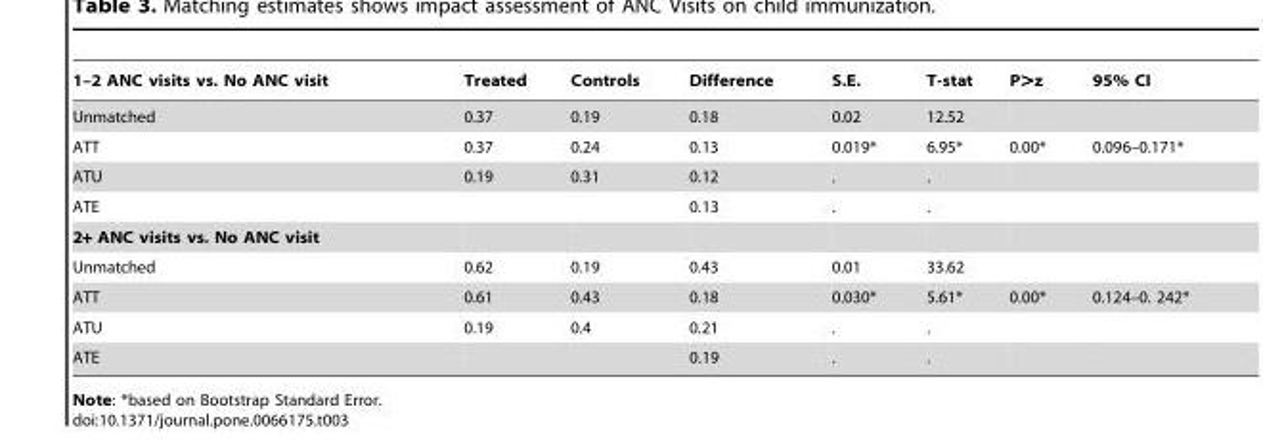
<table><thead><tr><td>1–2 ANC visits vs. No ANC visit</td><td>Treated</td><td>Controls</td><td>Difference</td><td>S.E.</td><td>T-stat</td><td>P&gt;z</td><td>95% CI</td></tr></thead><tbody><tr><td>Unmatched</td><td>0.37</td><td>0.19</td><td>0.18</td><td>0.02</td><td>12.52</td><td></td><td></td></tr><tr><td>ATT</td><td>0.37</td><td>0.24</td><td>0.13</td><td>0.019*</td><td>6.95*</td><td>0.00*</td><td>0.096–0.171*</td></tr><tr><td>ATU</td><td>0.19</td><td>0.31</td><td>0.12</td><td>.</td><td>.</td><td></td><td></td></tr><tr><td>ATE</td><td></td><td></td><td>0.13</td><td>.</td><td>.</td><td></td><td></td></tr><tr><td colspan="8">2+ ANC visits vs. No ANC visit</td></tr><tr><td>Unmatched</td><td>0.62</td><td>0.19</td><td>0.43</td><td>0.01</td><td>33.62</td><td></td><td></td></tr><tr><td>ATT</td><td>0.61</td><td>0.43</td><td>0.18</td><td>0.030*</td><td>5.61*</td><td>0.00*</td><td>0.124–0. 242*</td></tr><tr><td>ATU</td><td>0.19</td><td>0.4</td><td>0.21</td><td>.</td><td>.</td><td></td><td></td></tr><tr><td>ATE</td><td></td><td></td><td>0.19</td><td>.</td><td>.</td><td></td><td></td></tr></tbody></table>